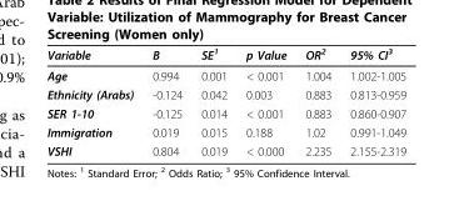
<table><thead><tr><td>Variable</td><td>B</td><td>SE<sup>1</sup></td><td>p Value</td><td>OR<sup>2</sup></td><td>95% CI<sup>3</sup></td></tr></thead><tbody><tr><td>Age</td><td>0.994</td><td>0.001</td><td>&lt; 0.001</td><td>1.004</td><td>1.002-1.005</td></tr><tr><td>Ethnicity (Arabs)</td><td>-0.124</td><td>0.042</td><td>0.003</td><td>0.883</td><td>0.813-0.959</td></tr><tr><td>SER 1-10</td><td>-0.125</td><td>0.014</td><td>&lt; 0.001</td><td>0.883</td><td>0.860-0.907</td></tr><tr><td>Immigration</td><td>0.019</td><td>0.015</td><td>0.188</td><td>1.02</td><td>0.991-1.049</td></tr><tr><td>VSHI</td><td>0.804</td><td>0.019</td><td>&lt; 0.000</td><td>2.235</td><td>2.155-2.319</td></tr></tbody></table>